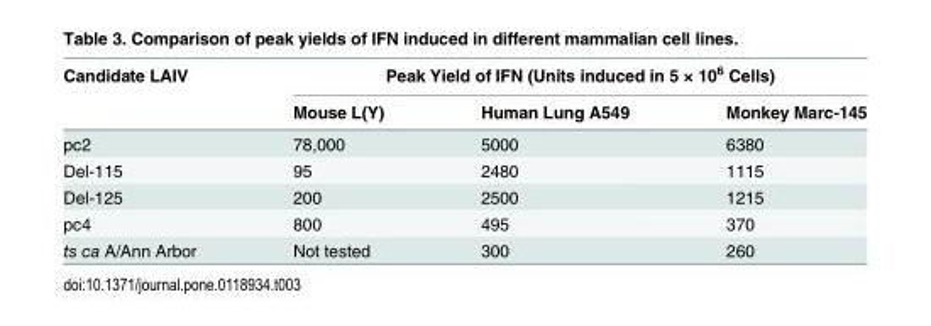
<table><thead><tr><td rowspan="2">Candidate LAIV</td><td colspan="3">Peak Yield of IFN (Units induced in 5 × 10<sup>6</sup> Cells)</td></tr><tr><td>Mouse L(Y)</td><td>Human Lung A549</td><td>Monkey Marc-145</td></tr></thead><tbody><tr><td>pc2</td><td>78,000</td><td>5000</td><td>6380</td></tr><tr><td>Del-115</td><td>95</td><td>2480</td><td>1115</td></tr><tr><td>Del-125</td><td>200</td><td>2500</td><td>1215</td></tr><tr><td>pc4</td><td>800</td><td>495</td><td>370</td></tr><tr><td>ts ca A/Ann Arbor</td><td>Not tested</td><td>300</td><td>260</td></tr></tbody></table>